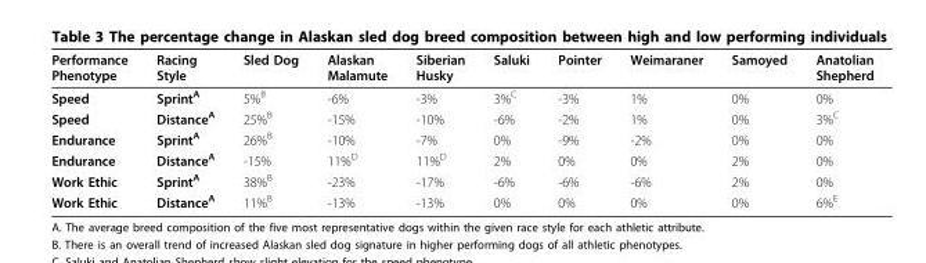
<table><thead><tr><td>Performance Phenotype</td><td>Racing Style</td><td>Sled Dog</td><td>Alaskan Malamute</td><td>Siberian Husky</td><td>Saluki</td><td>Pointer</td><td>Weimaraner</td><td>Samoyed</td><td>Anatolian Shepherd</td></tr></thead><tbody><tr><td>Speed</td><td>Sprint<sup>A</sup></td><td>5%<sup>B</sup></td><td>-6%</td><td>-3%</td><td>3%<sup>C</sup></td><td>-3%</td><td>1%</td><td>0%</td><td>0%</td></tr><tr><td>Speed</td><td>Distance<sup>A</sup></td><td>25%<sup>B</sup></td><td>-15%</td><td>-10%</td><td>-6%</td><td>-2%</td><td>1%</td><td>0%</td><td>3%<sup>C</sup></td></tr><tr><td>Endurance</td><td>Sprint<sup>A</sup></td><td>26%<sup>B</sup></td><td>-10%</td><td>-7%</td><td>0%</td><td>-9%</td><td>-2%</td><td>0%</td><td>0%</td></tr><tr><td>Endurance</td><td>Distance<sup>A</sup></td><td>-15%</td><td>11%<sup>D</sup></td><td>11%<sup>D</sup></td><td>2%</td><td>0%</td><td>0%</td><td>2%</td><td>0%</td></tr><tr><td>Work Ethic</td><td>Sprint<sup>A</sup></td><td>38%<sup>B</sup></td><td>-23%</td><td>-17%</td><td>-6%</td><td>-6%</td><td>-6%</td><td>2%</td><td>0%</td></tr><tr><td>Work Ethic</td><td>Distance<sup>A</sup></td><td>11%<sup>B</sup></td><td>-13%</td><td>-13%</td><td>0%</td><td>0%</td><td>0%</td><td>0%</td><td>6%<sup>E</sup></td></tr></tbody></table>